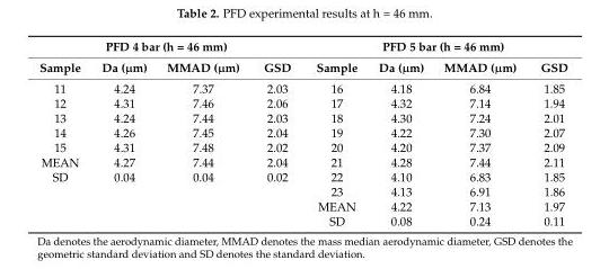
<table><thead><tr><td colspan="4">PFD 4 bar (h = 46 mm)</td><td colspan="4">PFD 5 bar (h = 46 mm)</td></tr><tr><td>Sample</td><td>Da (µm)</td><td>MMAD (µm)</td><td>GSD</td><td>Sample</td><td>Da (µm)</td><td>MMAD (µm)</td><td>GSD</td></tr></thead><tbody><tr><td>11</td><td>4.24</td><td>7.37</td><td>2.03</td><td>16</td><td>4.18</td><td>6.84</td><td>1.85</td></tr><tr><td>12</td><td>4.31</td><td>7.46</td><td>2.06</td><td>17</td><td>4.32</td><td>7.14</td><td>1.94</td></tr><tr><td>13</td><td>4.24</td><td>7.44</td><td>2.03</td><td>18</td><td>4.30</td><td>7.24</td><td>2.01</td></tr><tr><td>14</td><td>4.26</td><td>7.45</td><td>2.04</td><td>19</td><td>4.22</td><td>7.30</td><td>2.07</td></tr><tr><td>15</td><td>4.31</td><td>7.48</td><td>2.02</td><td>20</td><td>4.20</td><td>7.37</td><td>2.09</td></tr><tr><td>MEAN</td><td>4.27</td><td>7.44</td><td>2.04</td><td>21</td><td>4.28</td><td>7.44</td><td>2.11</td></tr><tr><td>SD</td><td>0.04</td><td>0.04</td><td>0.02</td><td>22</td><td>4.10</td><td>6.83</td><td>1.85</td></tr><tr><td colspan="4"></td><td>23</td><td>4.13</td><td>6.91</td><td>1.86</td></tr><tr><td colspan="4"></td><td>MEAN</td><td>4.22</td><td>7.13</td><td>1.97</td></tr><tr><td colspan="4"></td><td>SD</td><td>0.08</td><td>0.24</td><td>0.11</td></tr></tbody></table>